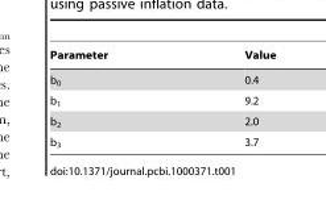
<table><thead><tr><td>Parameter</td><td>Value</td></tr></thead><tbody><tr><td>b<sub>0</sub></td><td>0.4</td></tr><tr><td>b<sub>1</sub></td><td>9.2</td></tr><tr><td>b<sub>2</sub></td><td>2.0</td></tr><tr><td>b<sub>3</sub></td><td>3.7</td></tr></tbody></table>